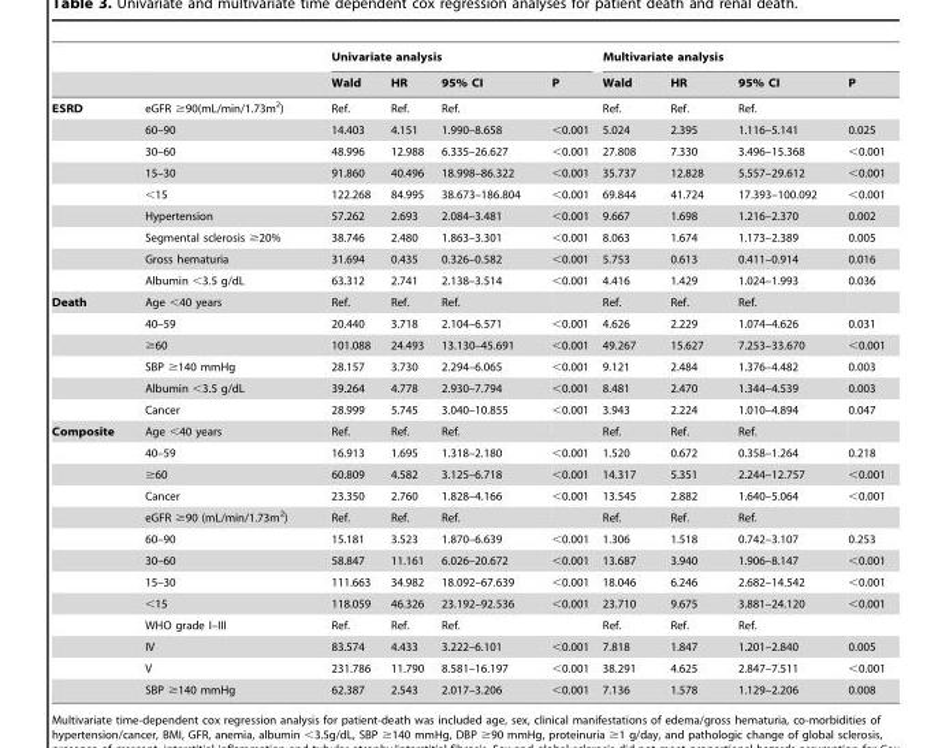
<table><thead><tr><td rowspan="2"></td><td rowspan="2"></td><td colspan="4">Univariate analysis</td><td colspan="4">Multivariate analysis</td></tr><tr><td>Wald</td><td>HR</td><td>95% CI</td><td>P</td><td>Wald</td><td>HR</td><td>95% CI</td><td>P</td></tr></thead><tbody><tr><td rowspan="9">ESRD</td><td>eGFR ≥90(mL/min/1.73m<sup>2</sup>)</td><td>Ref.</td><td>Ref.</td><td>Ref.</td><td></td><td>Ref.</td><td>Ref.</td><td>Ref.</td><td></td></tr><tr><td>60–90</td><td>14.403</td><td>4.151</td><td>1.990–8.658</td><td>&lt;0.001</td><td>5.024</td><td>2.395</td><td>1.116–5.141</td><td>0.025</td></tr><tr><td>30–60</td><td>48.996</td><td>12.988</td><td>6.335–26.627</td><td>&lt;0.001</td><td>27.808</td><td>7.330</td><td>3.496–15.368</td><td>&lt;0.001</td></tr><tr><td>15–30</td><td>91.860</td><td>40.496</td><td>18.998–86.322</td><td>&lt;0.001</td><td>35.737</td><td>12.828</td><td>5.557–29.612</td><td>&lt;0.001</td></tr><tr><td>&lt;15</td><td>122.268</td><td>84.995</td><td>38.673–186.804</td><td>&lt;0.001</td><td>69.844</td><td>41.724</td><td>17.393–100.092</td><td>&lt;0.001</td></tr><tr><td>Hypertension</td><td>57.262</td><td>2.693</td><td>2.084–3.481</td><td>&lt;0.001</td><td>9.667</td><td>1.698</td><td>1.216–2.370</td><td>0.002</td></tr><tr><td>Segmental sclerosis ≥20%</td><td>38.746</td><td>2.480</td><td>1.863–3.301</td><td>&lt;0.001</td><td>8.063</td><td>1.674</td><td>1.173–2.389</td><td>0.005</td></tr><tr><td>Gross hematuria</td><td>31.694</td><td>0.435</td><td>0.326–0.582</td><td>&lt;0.001</td><td>5.753</td><td>0.613</td><td>0.411–0.914</td><td>0.016</td></tr><tr><td>Albumin &lt;3.5 g/dL</td><td>63.312</td><td>2.741</td><td>2.138–3.514</td><td>&lt;0.001</td><td>4.416</td><td>1.429</td><td>1.024–1.993</td><td>0.036</td></tr><tr><td rowspan="6">Death</td><td>Age &lt;40 years</td><td>Ref.</td><td>Ref.</td><td>Ref.</td><td></td><td>Ref.</td><td>Ref.</td><td>Ref.</td><td></td></tr><tr><td>40–59</td><td>20.440</td><td>3.718</td><td>2.104–6.571</td><td>&lt;0.001</td><td>4.626</td><td>2.229</td><td>1.074–4.626</td><td>0.031</td></tr><tr><td>≥60</td><td>101.088</td><td>24.493</td><td>13.130–45.691</td><td>&lt;0.001</td><td>49.267</td><td>15.627</td><td>7.253–33.670</td><td>&lt;0.001</td></tr><tr><td>SBP ≥140 mmHg</td><td>28.157</td><td>3.730</td><td>2.294–6.065</td><td>&lt;0.001</td><td>9.121</td><td>2.484</td><td>1.376–4.482</td><td>0.003</td></tr><tr><td>Albumin &lt;3.5 g/dL</td><td>39.264</td><td>4.778</td><td>2.930–7.794</td><td>&lt;0.001</td><td>8.481</td><td>2.470</td><td>1.344–4.539</td><td>0.003</td></tr><tr><td>Cancer</td><td>28.999</td><td>5.745</td><td>3.040–10.855</td><td>&lt;0.001</td><td>3.943</td><td>2.224</td><td>1.010–4.894</td><td>0.047</td></tr><tr><td rowspan="13">Composite</td><td>Age &lt;40 years</td><td>Ref.</td><td>Ref.</td><td>Ref.</td><td></td><td>Ref.</td><td>Ref.</td><td>Ref.</td><td></td></tr><tr><td>40–59</td><td>16.913</td><td>1.695</td><td>1.318–2.180</td><td>&lt;0.001</td><td>1.520</td><td>0.672</td><td>0.358–1.264</td><td>0.218</td></tr><tr><td>≥60</td><td>60.809</td><td>4.582</td><td>3.125–6.718</td><td>&lt;0.001</td><td>14.317</td><td>5.351</td><td>2.244–12.757</td><td>&lt;0.001</td></tr><tr><td>Cancer</td><td>23.350</td><td>2.760</td><td>1.828–4.166</td><td>&lt;0.001</td><td>13.545</td><td>2.882</td><td>1.640–5.064</td><td>&lt;0.001</td></tr><tr><td>eGFR ≥90 (mL/min/1.73m<sup>2</sup>)</td><td>Ref.</td><td>Ref.</td><td>Ref.</td><td></td><td>Ref.</td><td>Ref.</td><td>Ref.</td><td></td></tr><tr><td>60–90</td><td>15.181</td><td>3.523</td><td>1.870–6.639</td><td>&lt;0.001</td><td>1.306</td><td>1.518</td><td>0.742–3.107</td><td>0.253</td></tr><tr><td>30–60</td><td>58.847</td><td>11.161</td><td>6.026–20.672</td><td>&lt;0.001</td><td>13.687</td><td>3.940</td><td>1.906–8.147</td><td>&lt;0.001</td></tr><tr><td>15–30</td><td>111.663</td><td>34.982</td><td>18.092–67.639</td><td>&lt;0.001</td><td>18.046</td><td>6.246</td><td>2.682–14.542</td><td>&lt;0.001</td></tr><tr><td>&lt;15</td><td>118.059</td><td>46.326</td><td>23.192–92.536</td><td>&lt;0.001</td><td>23.710</td><td>9.675</td><td>3.881–24.120</td><td>&lt;0.001</td></tr><tr><td>WHO grade I–III</td><td>Ref.</td><td>Ref.</td><td>Ref.</td><td></td><td>Ref.</td><td>Ref.</td><td>Ref.</td><td></td></tr><tr><td>IV</td><td>83.574</td><td>4.433</td><td>3.222–6.101</td><td>&lt;0.001</td><td>7.818</td><td>1.847</td><td>1.201–2.840</td><td>0.005</td></tr><tr><td>V</td><td>231.786</td><td>11.790</td><td>8.581–16.197</td><td>&lt;0.001</td><td>38.291</td><td>4.625</td><td>2.847–7.511</td><td>&lt;0.001</td></tr><tr><td>SBP ≥140 mmHg</td><td>62.387</td><td>2.543</td><td>2.017–3.206</td><td>&lt;0.001</td><td>7.136</td><td>1.578</td><td>1.129–2.206</td><td>0.008</td></tr></tbody></table>